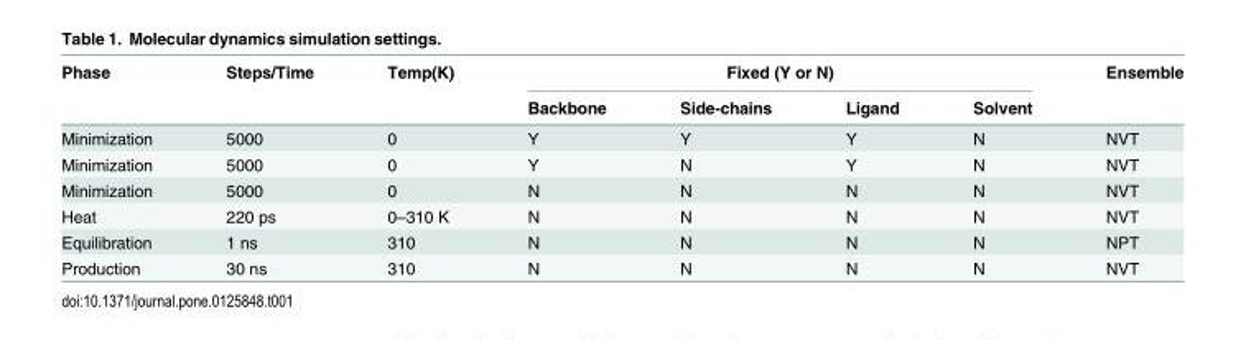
<table><thead><tr><td rowspan="2">Phase</td><td rowspan="2">Steps/Time</td><td rowspan="2">Temp(K)</td><td colspan="4">Fixed (Y or N)</td><td rowspan="2">Ensemble</td></tr><tr><td>Backbone</td><td>Side-chains</td><td>Ligand</td><td>Solvent</td></tr></thead><tbody><tr><td>Minimization</td><td>5000</td><td>0</td><td>Y</td><td>Y</td><td>Y</td><td>N</td><td>NVT</td></tr><tr><td>Minimization</td><td>5000</td><td>0</td><td>Y</td><td>N</td><td>Y</td><td>N</td><td>NVT</td></tr><tr><td>Minimization</td><td>5000</td><td>0</td><td>N</td><td>N</td><td>N</td><td>N</td><td>NVT</td></tr><tr><td>Heat</td><td>220 ps</td><td>0–310 K</td><td>N</td><td>N</td><td>N</td><td>N</td><td>NVT</td></tr><tr><td>Equilibration</td><td>1 ns</td><td>310</td><td>N</td><td>N</td><td>N</td><td>N</td><td>NPT</td></tr><tr><td>Production</td><td>30 ns</td><td>310</td><td>N</td><td>N</td><td>N</td><td>N</td><td>NVT</td></tr></tbody></table>